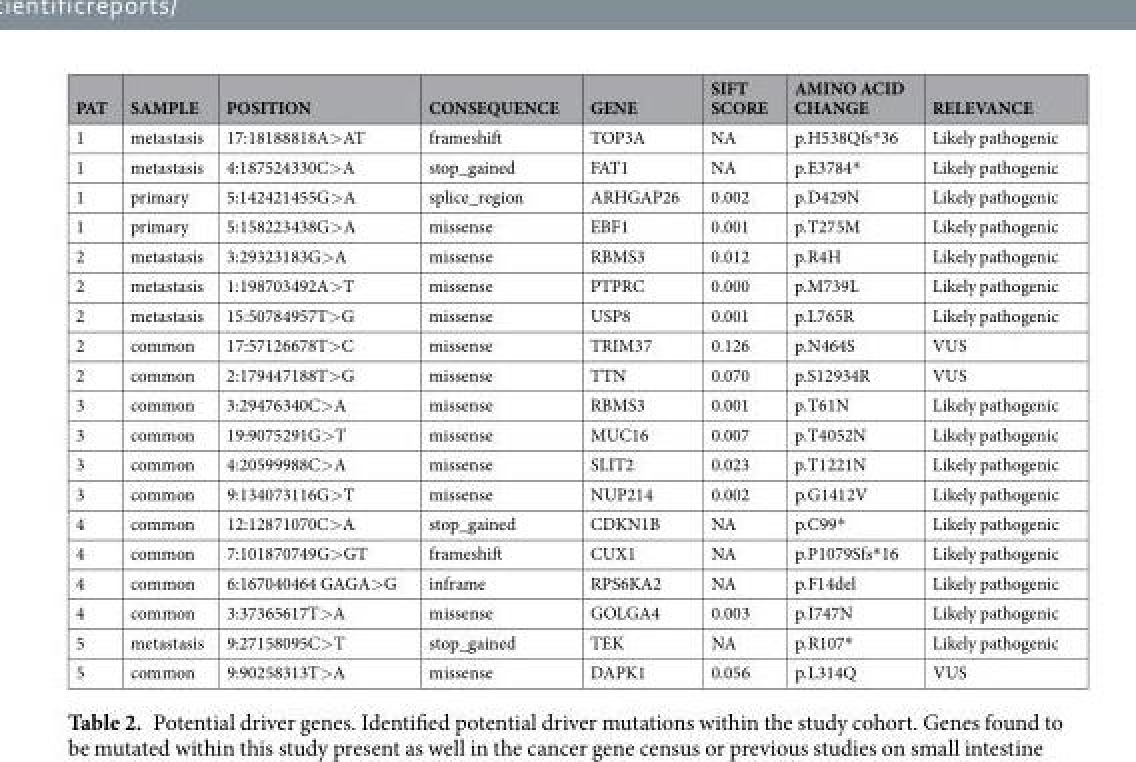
<table><thead><tr><td>PAT</td><td>SAMPLE</td><td>POSITION</td><td>CONSEQUENCE</td><td>GENE</td><td>SIFT SCORE</td><td>AMINO ACID CHANGE</td><td>RELEVANCE</td></tr></thead><tbody><tr><td>1</td><td>metastasis</td><td>17:18188818A&gt;AT</td><td>frameshift</td><td>TOP3A</td><td>NA</td><td>p.H538Qfs*36</td><td>Likely pathogenic</td></tr><tr><td>1</td><td>metastasis</td><td>4:187524330C&gt;A</td><td>stop_gained</td><td>FAT1</td><td>NA</td><td>p.E3784*</td><td>Likely pathogenic</td></tr><tr><td>1</td><td>primary</td><td>5:142421455G&gt;A</td><td>splice_region</td><td>ARHGAP26</td><td>0.002</td><td>p.D429N</td><td>Likely pathogenic</td></tr><tr><td>1</td><td>primary</td><td>5:158223438G&gt;A</td><td>missense</td><td>EBF1</td><td>0.001</td><td>p.T275M</td><td>Likely pathogenic</td></tr><tr><td>2</td><td>metastasis</td><td>3:29323183G&gt;A</td><td>missense</td><td>RBMS3</td><td>0.012</td><td>p.R4H</td><td>Likely pathogenic</td></tr><tr><td>2</td><td>metastasis</td><td>1:198703492A&gt;T</td><td>missense</td><td>PTPRC</td><td>0.000</td><td>p.M739L</td><td>Likely pathogenic</td></tr><tr><td>2</td><td>metastasis</td><td>15:50784957T&gt;G</td><td>missense</td><td>USP8</td><td>0.001</td><td>p.L765R</td><td>Likely pathogenic</td></tr><tr><td>2</td><td>common</td><td>17:57126678T&gt;C</td><td>missense</td><td>TRIM37</td><td>0.126</td><td>p.N464S</td><td>VUS</td></tr><tr><td>2</td><td>common</td><td>2:179447188T&gt;G</td><td>missense</td><td>TTN</td><td>0.070</td><td>p.S12934R</td><td>VUS</td></tr><tr><td>3</td><td>common</td><td>3:29476340C&gt;A</td><td>missense</td><td>RBMS3</td><td>0.001</td><td>p.T61N</td><td>Likely pathogenic</td></tr><tr><td>3</td><td>common</td><td>19:9075291G&gt;T</td><td>missense</td><td>MUC16</td><td>0.007</td><td>p.T4052N</td><td>Likely pathogenic</td></tr><tr><td>3</td><td>common</td><td>4:20599988C&gt;A</td><td>missense</td><td>SLIT2</td><td>0.023</td><td>p.T1221N</td><td>Likely pathogenic</td></tr><tr><td>3</td><td>common</td><td>9:134073116G&gt;T</td><td>missense</td><td>NUP214</td><td>0.002</td><td>p.G1412V</td><td>Likely pathogenic</td></tr><tr><td>4</td><td>common</td><td>12:12871070C&gt;A</td><td>stop_gained</td><td>CDKN1B</td><td>NA</td><td>p.C99*</td><td>Likely pathogenic</td></tr><tr><td>4</td><td>common</td><td>7:101870749G&gt;GT</td><td>frameshift</td><td>CUX1</td><td>NA</td><td>p.P1079Sfs*16</td><td>Likely pathogenic</td></tr><tr><td>4</td><td>common</td><td>6:167040464 GAGA&gt;G</td><td>inframe</td><td>RPS6KA2</td><td>NA</td><td>p.F14del</td><td>Likely pathogenic</td></tr><tr><td>4</td><td>common</td><td>3:37365617T&gt;A</td><td>missense</td><td>GOLGA4</td><td>0.003</td><td>p.I747N</td><td>Likely pathogenic</td></tr><tr><td>5</td><td>metastasis</td><td>9:27158095C&gt;T</td><td>stop_gained</td><td>TEK</td><td>NA</td><td>p.R107*</td><td>Likely pathogenic</td></tr><tr><td>5</td><td>common</td><td>9:90258313T&gt;A</td><td>missense</td><td>DAPK1</td><td>0.056</td><td>p.L314Q</td><td>VUS</td></tr></tbody></table>